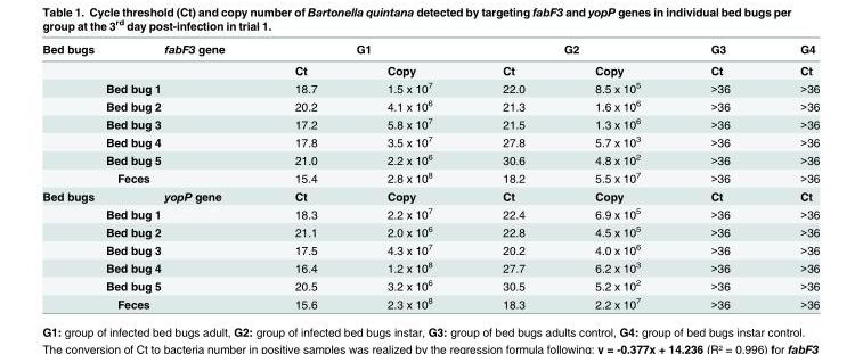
<table><thead><tr><td rowspan="2">Bed bugs</td><td rowspan="2">fabF3 gene</td><td colspan="2">G1</td><td colspan="2">G2</td><td rowspan="2">G3 Ct</td><td rowspan="2">G4 Ct</td></tr><tr><td>Ct</td><td>Copy</td><td>Ct</td><td>Copy</td></tr></thead><tbody><tr><td colspan="2">Bed bug 1</td><td>18.7</td><td>1.5 x 10<sup>7</sup></td><td>22.0</td><td>8.5 x 10<sup>5</sup></td><td>&gt;36</td><td>&gt;36</td></tr><tr><td colspan="2">Bed bug 2</td><td>20.2</td><td>4.1 x 10<sup>6</sup></td><td>21.3</td><td>1.6 x 10<sup>6</sup></td><td>&gt;36</td><td>&gt;36</td></tr><tr><td colspan="2">Bed bug 3</td><td>17.2</td><td>5.8 x 10<sup>7</sup></td><td>21.5</td><td>1.3 x 10<sup>6</sup></td><td>&gt;36</td><td>&gt;36</td></tr><tr><td colspan="2">Bed bug 4</td><td>17.8</td><td>3.5 x 10<sup>7</sup></td><td>27.8</td><td>5.7 x 10<sup>3</sup></td><td>&gt;36</td><td>&gt;36</td></tr><tr><td colspan="2">Bed bug 5</td><td>21.0</td><td>2.2 x 10<sup>6</sup></td><td>30.6</td><td>4.8 x 10<sup>2</sup></td><td>&gt;36</td><td>&gt;36</td></tr><tr><td colspan="2">Feces</td><td>15.4</td><td>2.8 x 10<sup>8</sup></td><td>18.2</td><td>5.5 x 10<sup>7</sup></td><td>&gt;36</td><td>&gt;36</td></tr><tr><td>Bed bugs</td><td>yopP gene</td><td>Ct</td><td>Copy</td><td>Ct</td><td>Copy</td><td>Ct</td><td>Ct</td></tr><tr><td colspan="2">Bed bug 1</td><td>18.3</td><td>2.2 x 10<sup>7</sup></td><td>22.4</td><td>6.9 x 10<sup>5</sup></td><td>&gt;36</td><td>&gt;36</td></tr><tr><td colspan="2">Bed bug 2</td><td>21.1</td><td>2.0 x 10<sup>6</sup></td><td>22.8</td><td>4.5 x 10<sup>5</sup></td><td>&gt;36</td><td>&gt;36</td></tr><tr><td colspan="2">Bed bug 3</td><td>17.5</td><td>4.3 x 10<sup>7</sup></td><td>20.2</td><td>4.0 x 10<sup>6</sup></td><td>&gt;36</td><td>&gt;36</td></tr><tr><td colspan="2">Bed bug 4</td><td>16.4</td><td>1.2 x 10<sup>8</sup></td><td>27.7</td><td>6.2 x 10<sup>3</sup></td><td>&gt;36</td><td>&gt;36</td></tr><tr><td colspan="2">Bed bug 5</td><td>20.5</td><td>3.2 x 10<sup>6</sup></td><td>30.5</td><td>5.2 x 10<sup>2</sup></td><td>&gt;36</td><td>&gt;36</td></tr><tr><td colspan="2">Feces</td><td>15.6</td><td>2.3 x 10<sup>8</sup></td><td>18.3</td><td>2.2 x 10<sup>7</sup></td><td>&gt;36</td><td>&gt;36</td></tr></tbody></table>